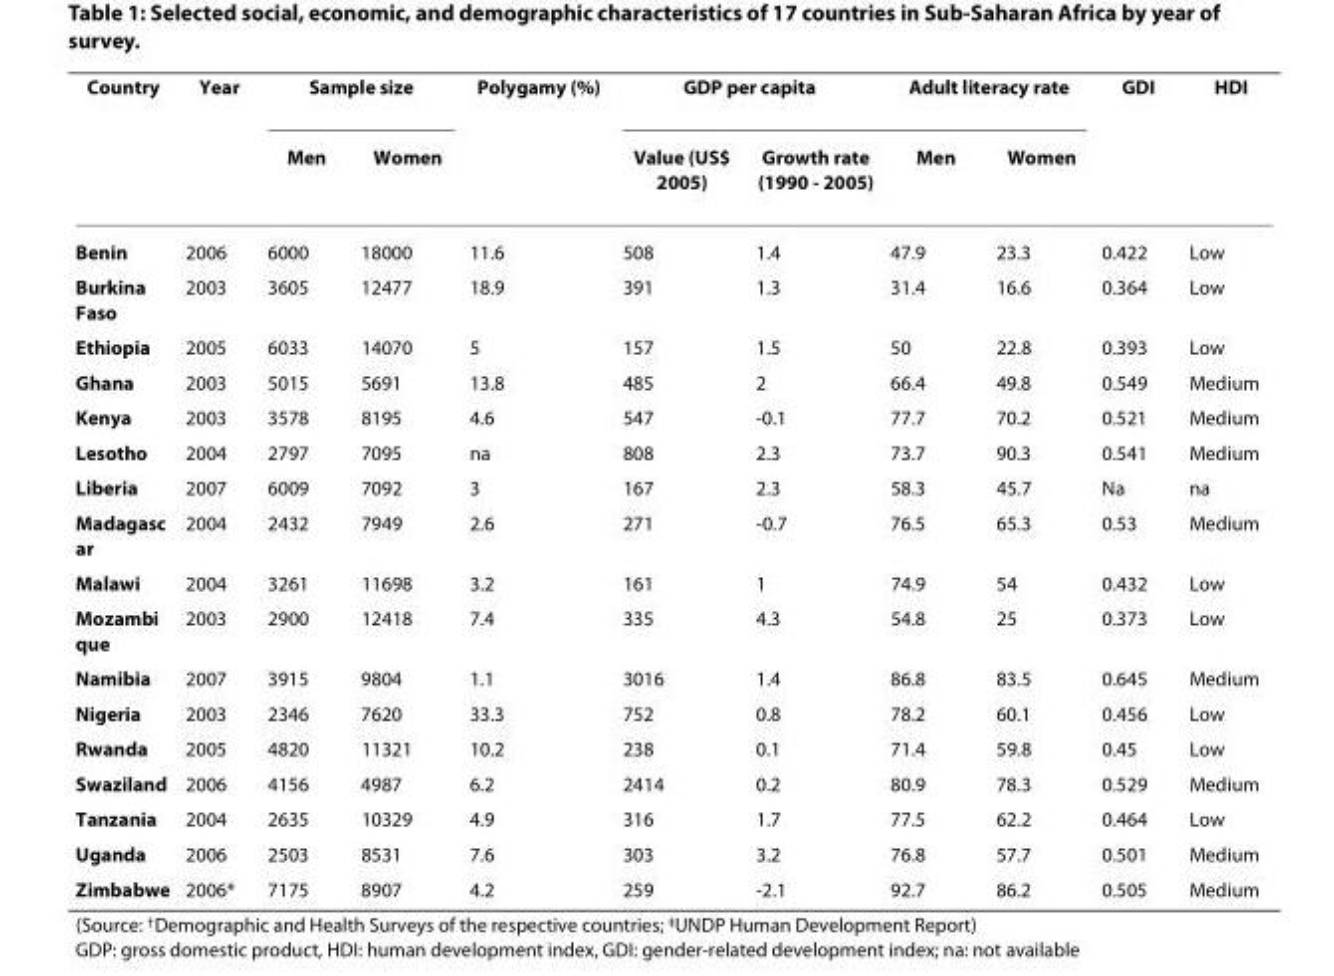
<table><thead><tr><td rowspan="2">Country</td><td rowspan="2">Year</td><td colspan="2">Sample size</td><td rowspan="2">Polygamy (%)</td><td colspan="2">GDP per capita</td><td colspan="2">Adult literacy rate</td><td rowspan="2">GDI</td><td rowspan="2">HDI</td></tr><tr><td>Men</td><td>Women</td><td>Value (US$ 2005)</td><td>Growth rate (1990 - 2005)</td><td>Men</td><td>Women</td></tr></thead><tbody><tr><td>Benin</td><td>2006</td><td>6000</td><td>18000</td><td>11.6</td><td>508</td><td>1.4</td><td>47.9</td><td>23.3</td><td>0.422</td><td>Low</td></tr><tr><td>Burkina Faso</td><td>2003</td><td>3605</td><td>12477</td><td>18.9</td><td>391</td><td>1.3</td><td>31.4</td><td>16.6</td><td>0.364</td><td>Low</td></tr><tr><td>Ethiopia</td><td>2005</td><td>6033</td><td>14070</td><td>5</td><td>157</td><td>1.5</td><td>50</td><td>22.8</td><td>0.393</td><td>Low</td></tr><tr><td>Ghana</td><td>2003</td><td>5015</td><td>5691</td><td>13.8</td><td>485</td><td>2</td><td>66.4</td><td>49.8</td><td>0.549</td><td>Medium</td></tr><tr><td>Kenya</td><td>2003</td><td>3578</td><td>8195</td><td>4.6</td><td>547</td><td>-0.1</td><td>77.7</td><td>70.2</td><td>0.521</td><td>Medium</td></tr><tr><td>Lesotho</td><td>2004</td><td>2797</td><td>7095</td><td>na</td><td>808</td><td>2.3</td><td>73.7</td><td>90.3</td><td>0.541</td><td>Medium</td></tr><tr><td>Liberia</td><td>2007</td><td>6009</td><td>7092</td><td>3</td><td>167</td><td>2.3</td><td>58.3</td><td>45.7</td><td>Na</td><td>na</td></tr><tr><td>Madagasc ar</td><td>2004</td><td>2432</td><td>7949</td><td>2.6</td><td>271</td><td>-0.7</td><td>76.5</td><td>65.3</td><td>0.53</td><td>Medium</td></tr><tr><td>Malawi</td><td>2004</td><td>3261</td><td>11698</td><td>3.2</td><td>161</td><td>1</td><td>74.9</td><td>54</td><td>0.432</td><td>Low</td></tr><tr><td>Mozambi que</td><td>2003</td><td>2900</td><td>12418</td><td>7.4</td><td>335</td><td>4.3</td><td>54.8</td><td>25</td><td>0.373</td><td>Low</td></tr><tr><td>Namibia</td><td>2007</td><td>3915</td><td>9804</td><td>1.1</td><td>3016</td><td>1.4</td><td>86.8</td><td>83.5</td><td>0.645</td><td>Medium</td></tr><tr><td>Nigeria</td><td>2003</td><td>2346</td><td>7620</td><td>33.3</td><td>752</td><td>0.8</td><td>78.2</td><td>60.1</td><td>0.456</td><td>Low</td></tr><tr><td>Rwanda</td><td>2005</td><td>4820</td><td>11321</td><td>10.2</td><td>238</td><td>0.1</td><td>71.4</td><td>59.8</td><td>0.45</td><td>Low</td></tr><tr><td>Swaziland</td><td>2006</td><td>4156</td><td>4987</td><td>6.2</td><td>2414</td><td>0.2</td><td>80.9</td><td>78.3</td><td>0.529</td><td>Medium</td></tr><tr><td>Tanzania</td><td>2004</td><td>2635</td><td>10329</td><td>4.9</td><td>316</td><td>1.7</td><td>77.5</td><td>62.2</td><td>0.464</td><td>Low</td></tr><tr><td>Uganda</td><td>2006</td><td>2503</td><td>8531</td><td>7.6</td><td>303</td><td>3.2</td><td>76.8</td><td>57.7</td><td>0.501</td><td>Medium</td></tr><tr><td>Zimbabwe</td><td>2006*</td><td>7175</td><td>8907</td><td>4.2</td><td>259</td><td>-2.1</td><td>92.7</td><td>86.2</td><td>0.505</td><td>Medium</td></tr></tbody></table>